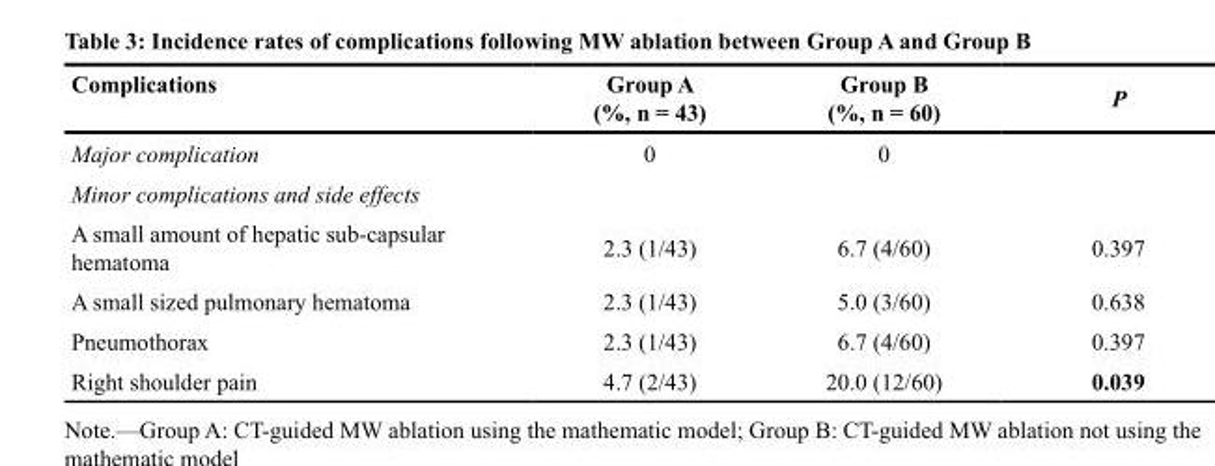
<table><thead><tr><td>Complications</td><td>Group A (%, n = 43)</td><td>Group B (%, n = 60)</td><td>P</td></tr></thead><tbody><tr><td>Major complication</td><td>0</td><td>0</td><td></td></tr><tr><td colspan="4">Minor complications and side effects</td></tr><tr><td>A small amount of hepatic sub-capsular hematoma</td><td>2.3 (1/43)</td><td>6.7 (4/60)</td><td>0.397</td></tr><tr><td>A small sized pulmonary hematoma</td><td>2.3 (1/43)</td><td>5.0 (3/60)</td><td>0.638</td></tr><tr><td>Pneumothorax</td><td>2.3 (1/43)</td><td>6.7 (4/60)</td><td>0.397</td></tr><tr><td>Right shoulder pain</td><td>4.7 (2/43)</td><td>20.0 (12/60)</td><td>0.039</td></tr></tbody></table>